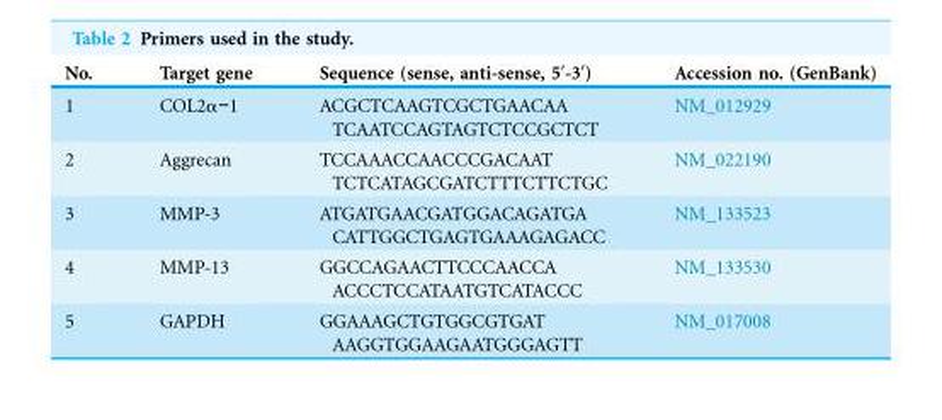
<table><thead><tr><td>No.</td><td>Target gene</td><td>Sequence (sense, anti-sense, 5′-3′)</td><td>Accession no. (GenBank)</td></tr></thead><tbody><tr><td>1</td><td>COL2α−1</td><td>ACGCTCAAGTCGCTGAACAA TCAATCCAGTAGTCTCCGCTCT</td><td>NM_012929</td></tr><tr><td>2</td><td>Aggrecan</td><td>TCCAAACCAACCCGACAAT TCTCATAGCGATCTTTCTTCTGC</td><td>NM_022190</td></tr><tr><td>3</td><td>MMP-3</td><td>ATGATGAACGATGGACAGATGA CATTGGCTGAGTGAAAGAGACC</td><td>NM_133523</td></tr><tr><td>4</td><td>MMP-13</td><td>GGCCAGAACTTCCCAACCA ACCCTCCATAATGTCATACCC</td><td>NM_133530</td></tr><tr><td>5</td><td>GAPDH</td><td>GGAAAGCTGTGGCGTGAT AAGGTGGAAGAATGGGAGTT</td><td>NM_017008</td></tr></tbody></table>